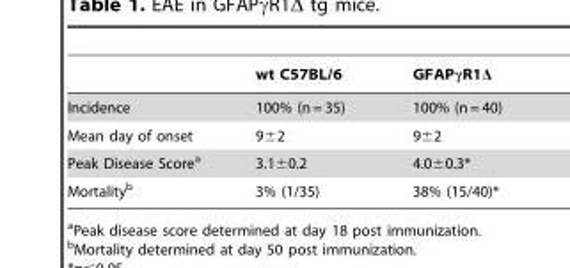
<table><thead><tr><td></td><td>wt C57BL/6</td><td>GFAPγR1Δ</td></tr></thead><tbody><tr><td>Incidence</td><td>100% (n = 35)</td><td>100% (n = 40)</td></tr><tr><td>Mean day of onset</td><td>9±2</td><td>9±2</td></tr><tr><td>Peak Disease Score<sup>a</sup></td><td>3.1±0.2</td><td>4.0±0.3*</td></tr><tr><td>Mortality<sup>b</sup></td><td>3% (1/35)</td><td>38% (15/40)*</td></tr></tbody></table>